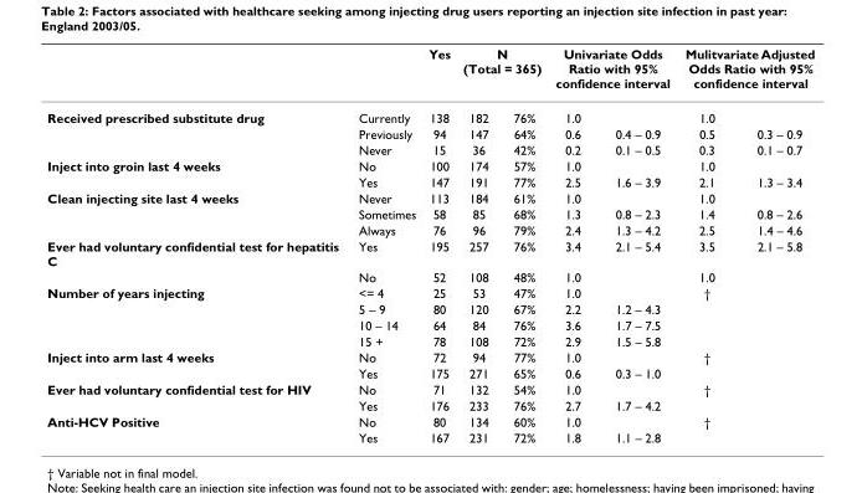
<table><thead><tr><td rowspan="2">Received prescribed substitute drug</td><td rowspan="2">Currently</td><td rowspan="2">Yes 138</td><td colspan="2">N (Total = 365)</td><td colspan="2">Univariate Odds Ratio with 95% confidence interval</td><td colspan="2">Mulitvariate Adjusted Odds Ratio with 95% confidence interval</td></tr><tr><td>182</td><td>76%</td><td>1.0</td><td></td><td>1.0</td><td></td></tr></thead><tbody><tr><td></td><td>Previously</td><td>94</td><td>147</td><td>64%</td><td>0.6</td><td>0.4 – 0.9</td><td>0.5</td><td>0.3 – 0.9</td></tr><tr><td></td><td>Never</td><td>15</td><td>36</td><td>42%</td><td>0.2</td><td>0.1 – 0.5</td><td>0.3</td><td>0.1 – 0.7</td></tr><tr><td rowspan="2">Inject into groin last 4 weeks</td><td>No</td><td>100</td><td>174</td><td>57%</td><td>1.0</td><td></td><td>1.0</td><td></td></tr><tr><td>Yes</td><td>147</td><td>191</td><td>77%</td><td>2.5</td><td>1.6 – 3.9</td><td>2.1</td><td>1.3 – 3.4</td></tr><tr><td rowspan="3">Clean injecting site last 4 weeks</td><td>Never</td><td>113</td><td>184</td><td>61%</td><td>1.0</td><td></td><td>1.0</td><td></td></tr><tr><td>Sometimes</td><td>58</td><td>85</td><td>68%</td><td>1.3</td><td>0.8 – 2.3</td><td>1.4</td><td>0.8 – 2.6</td></tr><tr><td>Always</td><td>76</td><td>96</td><td>79%</td><td>2.4</td><td>1.3 – 4.2</td><td>2.5</td><td>1.4 – 4.6</td></tr><tr><td rowspan="2">Ever had voluntary confidential test for hepatitis C</td><td>Yes</td><td>195</td><td>257</td><td>76%</td><td>3.4</td><td>2.1 – 5.4</td><td>3.5</td><td>2.1 – 5.8</td></tr><tr><td>No</td><td>52</td><td>108</td><td>48%</td><td>1.0</td><td></td><td>1.0</td><td></td></tr><tr><td rowspan="4">Number of years injecting</td><td>&lt;= 4</td><td>25</td><td>53</td><td>47%</td><td>1.0</td><td></td><td>†</td><td></td></tr><tr><td>5 – 9</td><td>80</td><td>120</td><td>67%</td><td>2.2</td><td>1.2 – 4.3</td><td></td><td></td></tr><tr><td>10 – 14</td><td>64</td><td>84</td><td>76%</td><td>3.6</td><td>1.7 – 7.5</td><td></td><td></td></tr><tr><td>15 +</td><td>78</td><td>108</td><td>72%</td><td>2.9</td><td>1.5 – 5.8</td><td></td><td></td></tr><tr><td rowspan="2">Inject into arm last 4 weeks</td><td>No</td><td>72</td><td>94</td><td>77%</td><td>1.0</td><td></td><td>†</td><td></td></tr><tr><td>Yes</td><td>175</td><td>271</td><td>65%</td><td>0.6</td><td>0.3 – 1.0</td><td></td><td></td></tr><tr><td rowspan="2">Ever had voluntary confidential test for HIV</td><td>No</td><td>71</td><td>132</td><td>54%</td><td>1.0</td><td></td><td>†</td><td></td></tr><tr><td>Yes</td><td>176</td><td>233</td><td>76%</td><td>2.7</td><td>1.7 – 4.2</td><td></td><td></td></tr><tr><td rowspan="2">Anti-HCV Positive</td><td>No</td><td>80</td><td>134</td><td>60%</td><td>1.0</td><td></td><td>†</td><td></td></tr><tr><td>Yes</td><td>167</td><td>231</td><td>72%</td><td>1.8</td><td>1.1 – 2.8</td><td></td><td></td></tr></tbody></table>